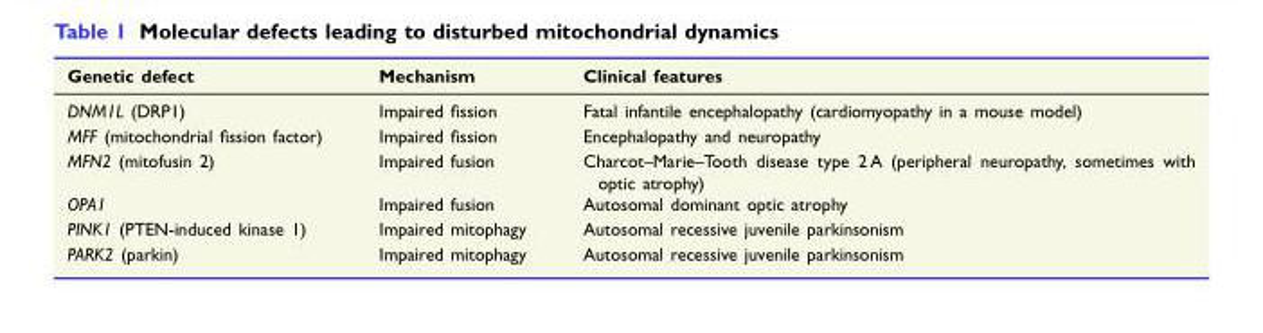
<table><thead><tr><td>Genetic defect</td><td>Mechanism</td><td>Clinical features</td></tr></thead><tbody><tr><td>DNM1L (DRP1)</td><td>Impaired fission</td><td>Fatal infantile encephalopathy (cardiomyopathy in a mouse model)</td></tr><tr><td>MFF (mitochondrial fission factor)</td><td>Impaired fission</td><td>Encephalopathy and neuropathy</td></tr><tr><td>MFN2 (mitofusin 2)</td><td>Impaired fusion</td><td>Charcot–Marie–Tooth disease type 2 A (peripheral neuropathy, sometimes with optic atrophy)</td></tr><tr><td>OPA1</td><td>Impaired fusion</td><td>Autosomal dominant optic atrophy</td></tr><tr><td>PINK1 (PTEN-induced kinase 1)</td><td>Impaired mitophagy</td><td>Autosomal recessive juvenile parkinsonism</td></tr><tr><td>PARK2 (parkin)</td><td>Impaired mitophagy</td><td>Autosomal recessive juvenile parkinsonism</td></tr></tbody></table>